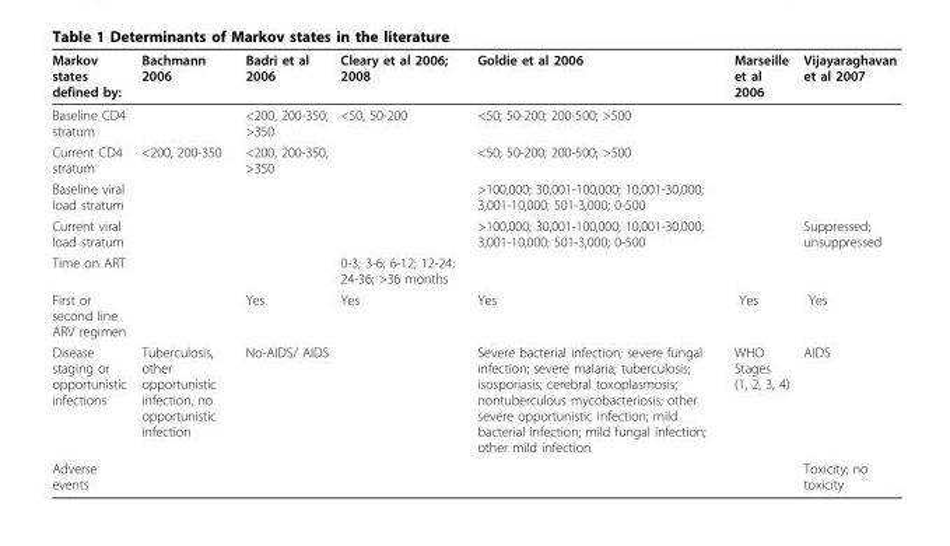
<table><thead><tr><td>Markov states defined by:</td><td>Bachmann 2006</td><td>Badri et al 2006</td><td>Cleary et al 2006; 2008</td><td>Goldie et al 2006</td><td>Marseille et al 2006</td><td>Vijayaraghavan et al 2007</td></tr></thead><tbody><tr><td>Baseline CD4 stratum</td><td></td><td>&lt;200, 200-350, &gt;350</td><td>&lt;50, 50-200</td><td>&lt;50; 50-200; 200-500; &gt;500</td><td></td><td></td></tr><tr><td>Current CD4 stratum</td><td>&lt;200, 200-350</td><td>&lt;200, 200-350, &gt;350</td><td></td><td>&lt;50; 50-200; 200-500; &gt;500</td><td></td><td></td></tr><tr><td>Baseline viral load stratum</td><td></td><td></td><td></td><td>&gt;100,000; 30,001-100,000; 10,001-30,000; 3,001-10,000; 501-3,000; 0-500</td><td></td><td></td></tr><tr><td>Current viral load stratum</td><td></td><td></td><td></td><td>&gt;100,000; 30,001-100,000; 10,001-30,000; 3,001-10,000; 501-3,000; 0-500</td><td></td><td>Suppressed; unsuppressed</td></tr><tr><td>Time on ART</td><td></td><td></td><td>0-3; 3-6; 6-12; 12-24; 24-36; &gt;36 months</td><td></td><td></td><td></td></tr><tr><td>First or second line ARV regimen</td><td></td><td>Yes</td><td>Yes</td><td>Yes</td><td>Yes</td><td>Yes</td></tr><tr><td>Disease staging or opportunistic infections</td><td>Tuberculosis, other opportunistic infection, no opportunistic infection</td><td>No-AIDS/ AIDS</td><td></td><td>Severe bacterial infection; severe fungal infection; severe malaria; tuberculosis; isosporiasis; cerebral toxoplasmosis; nontuberculous mycobacteriosis; other severe opportunistic infection; mild bacterial infection; mild fungal infection; other mild infection</td><td>WHO Stages (1, 2, 3, 4)</td><td>AIDS</td></tr><tr><td>Adverse events</td><td></td><td></td><td></td><td></td><td></td><td>Toxicity; no toxicity</td></tr></tbody></table>